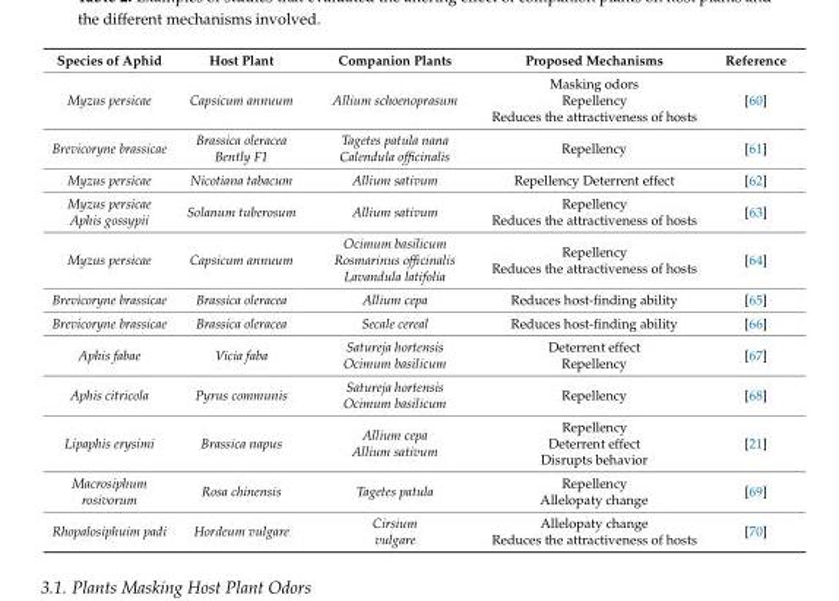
<table><thead><tr><td>Species of Aphid</td><td>Host Plant</td><td>Companion Plants</td><td>Proposed Mechanisms</td><td>Reference</td></tr></thead><tbody><tr><td>Myzus persicae</td><td>Capsicum annuum</td><td>Allium schoenoprasum</td><td>Masking odors Repellency Reduces the attractiveness of hosts</td><td>[60]</td></tr><tr><td>Brevicoryne brassicae</td><td>Brassica oleracea Bently F1</td><td>Tagetes patula nana Calendula officinalis</td><td>Repellency</td><td>[61]</td></tr><tr><td>Myzus persicae</td><td>Nicotiana tabacum</td><td>Allium sativum</td><td>Repellency Deterrent effect</td><td>[62]</td></tr><tr><td>Myzus persicae Aphis gossypii</td><td>Solanum tuberosum</td><td>Allium sativum</td><td>Repellency Reduces the attractiveness of hosts</td><td>[63]</td></tr><tr><td>Myzus persicae</td><td>Capsicum annuum</td><td>Ocimum basilicum Rosmarinus officinalis Lavandula latifolia</td><td>Repellency Reduces the attractiveness of hosts</td><td>[64]</td></tr><tr><td>Brevicoryne brassicae</td><td>Brassica oleracea</td><td>Allium cepa</td><td>Reduces host-finding ability</td><td>[65]</td></tr><tr><td>Brevicoryne brassicae</td><td>Brassica oleracea</td><td>Secale cereal</td><td>Reduces host-finding ability</td><td>[66]</td></tr><tr><td>Aphis fabae</td><td>Vicia faba</td><td>Satureja hortensis Ocimum basilicum</td><td>Deterrent effect Repellency</td><td>[67]</td></tr><tr><td>Aphis citricola</td><td>Pyrus communis</td><td>Satureja hortensis Ocimum basilicum</td><td>Repellency</td><td>[68]</td></tr><tr><td>Lipaphis erysimi</td><td>Brassica napus</td><td>Allium cepa Allium sativum</td><td>Repellency Deterrent effect Disrupts behavior</td><td>[21]</td></tr><tr><td>Macrosiphum rosivorum</td><td>Rosa chinensis</td><td>Tagetes patula</td><td>Repellency Allelopaty change</td><td>[69]</td></tr><tr><td>Rhopalosiphuim padi</td><td>Hordeum vulgare</td><td>Cirsium vulgare</td><td>Allelopaty change Reduces the attractiveness of hosts</td><td>[70]</td></tr></tbody></table>